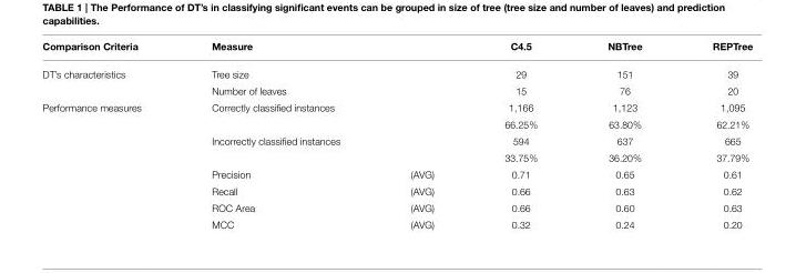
<table><thead><tr><td>Comparison Criteria</td><td>Measure</td><td></td><td>C4.5</td><td>NBTree</td><td>REPTree</td></tr></thead><tbody><tr><td rowspan="2">DT’s characteristics</td><td>Tree size</td><td></td><td>29</td><td>151</td><td>39</td></tr><tr><td>Number of leaves</td><td></td><td>15</td><td>76</td><td>20</td></tr><tr><td rowspan="8">Performance measures</td><td>Correctly classified instances</td><td></td><td>1,166</td><td>1,123</td><td>1,095</td></tr><tr><td></td><td></td><td>66.25%</td><td>63.80%</td><td>62.21%</td></tr><tr><td>Incorrectly classified instances</td><td></td><td>594</td><td>637</td><td>665</td></tr><tr><td></td><td></td><td>33.75%</td><td>36.20%</td><td>37.79%</td></tr><tr><td>Precision</td><td>(AVG)</td><td>0.71</td><td>0.65</td><td>0.61</td></tr><tr><td>Recall</td><td>(AVG)</td><td>0.66</td><td>0.63</td><td>0.62</td></tr><tr><td>ROC Area</td><td>(AVG)</td><td>0.66</td><td>0.60</td><td>0.63</td></tr><tr><td>MCC</td><td>(AVG)</td><td>0.32</td><td>0.24</td><td>0.20</td></tr></tbody></table>